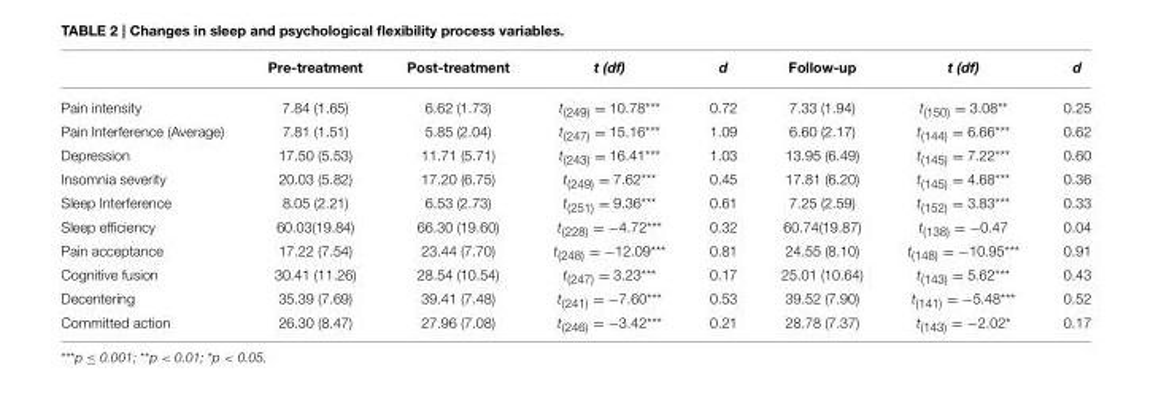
<table><thead><tr><td></td><td>Pre-treatment</td><td>Post-treatment</td><td>t (df)</td><td>d</td><td>Follow-up</td><td>t (df)</td><td>d</td></tr></thead><tbody><tr><td>Pain intensity</td><td>7.84 (1.65)</td><td>6.62 (1.73)</td><td>t<sub>(249)</sub> = 10.78***</td><td>0.72</td><td>7.33 (1.94)</td><td>t<sub>(150)</sub> = 3.08**</td><td>0.25</td></tr><tr><td>Pain Interference (Average)</td><td>7.81 (1.51)</td><td>5.85 (2.04)</td><td>t<sub>(247)</sub> = 15.16***</td><td>1.09</td><td>6.60 (2.17)</td><td>t<sub>(144)</sub> = 6.66***</td><td>0.62</td></tr><tr><td>Depression</td><td>17.50 (5.53)</td><td>11.71 (5.71)</td><td>t<sub>(243)</sub> = 16.41***</td><td>1.03</td><td>13.95 (6.49)</td><td>t<sub>(145)</sub> = 7.22***</td><td>0.60</td></tr><tr><td>Insomnia severity</td><td>20.03 (5.82)</td><td>17.20 (6.75)</td><td>t<sub>(249)</sub> = 7.62***</td><td>0.45</td><td>17.81 (6.20)</td><td>t<sub>(145)</sub> = 4.68***</td><td>0.36</td></tr><tr><td>Sleep Interference</td><td>8.05 (2.21)</td><td>6.53 (2.73)</td><td>t<sub>(251)</sub> = 9.36***</td><td>0.61</td><td>7.25 (2.59)</td><td>t<sub>(152)</sub> = 3.83***</td><td>0.33</td></tr><tr><td>Sleep efficiency</td><td>60.03(19.84)</td><td>66.30 (19.60)</td><td>t<sub>(228)</sub> = −4.72***</td><td>0.32</td><td>60.74(19.87)</td><td>t<sub>(138)</sub> = −0.47</td><td>0.04</td></tr><tr><td>Pain acceptance</td><td>17.22 (7.54)</td><td>23.44 (7.70)</td><td>t<sub>(248)</sub> = −12.09***</td><td>0.81</td><td>24.55 (8.10)</td><td>t<sub>(148)</sub> = −10.95***</td><td>0.91</td></tr><tr><td>Cognitive fusion</td><td>30.41 (11.26)</td><td>28.54 (10.54)</td><td>t<sub>(247)</sub> = 3.23***</td><td>0.17</td><td>25.01 (10.64)</td><td>t<sub>(143)</sub> = 5.62***</td><td>0.43</td></tr><tr><td>Decentering</td><td>35.39 (7.69)</td><td>39.41 (7.48)</td><td>t<sub>(241)</sub> = −7.60***</td><td>0.53</td><td>39.52 (7.90)</td><td>t<sub>(141)</sub> = −5.48***</td><td>0.52</td></tr><tr><td>Committed action</td><td>26.30 (8.47)</td><td>27.96 (7.08)</td><td>t<sub>(246)</sub> = −3.42***</td><td>0.21</td><td>28.78 (7.37)</td><td>t<sub>(143)</sub> = −2.02*</td><td>0.17</td></tr></tbody></table>